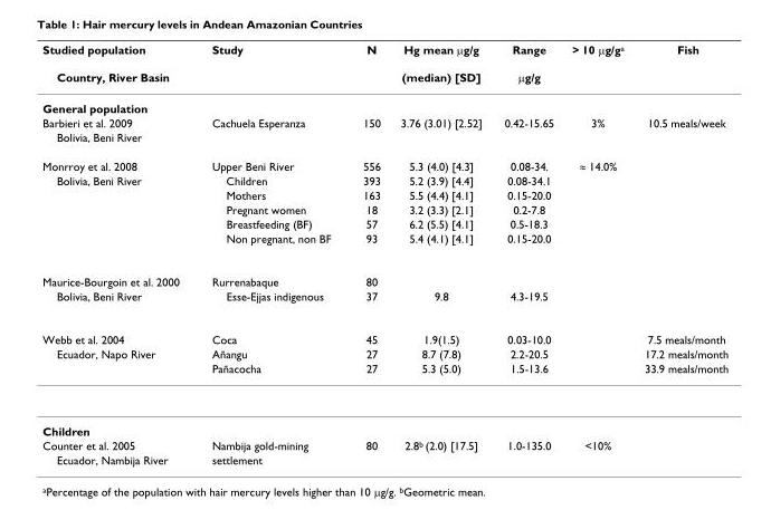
<table><thead><tr><td rowspan="2">Studied population Country, River Basin</td><td rowspan="2">Study</td><td rowspan="2">N</td><td rowspan="2">Hg mean μg/g (median) [SD]</td><td rowspan="2">Range μg/g</td><td rowspan="2">&gt; 10 μg/g<sup>a</sup></td><td rowspan="2">Fish</td></tr><tr></tr></thead><tbody><tr><td colspan="7">General population</td></tr><tr><td>Barbieri et al. 2009</td><td>Cachuela Esperanza</td><td>150</td><td>3.76 (3.01) [2.52]</td><td>0.42-15.65</td><td>3%</td><td>10.5 meals/week</td></tr><tr><td colspan="7">Bolivia, Beni River</td></tr><tr><td>Monrroy et al. 2008</td><td>Upper Beni River</td><td>556</td><td>5.3 (4.0) [4.3]</td><td>0.08-34.</td><td>≈ 14.0%</td><td></td></tr><tr><td rowspan="5">Bolivia, Beni River</td><td>Children</td><td>393</td><td>5.2 (3.9) [4.4]</td><td>0.08-34.1</td><td></td><td></td></tr><tr><td>Mothers</td><td>163</td><td>5.5 (4.4) [4.1]</td><td>0.15-20.0</td><td></td><td></td></tr><tr><td>Pregnant women</td><td>18</td><td>3.2 (3.3) [2.1]</td><td>0.2-7.8</td><td></td><td></td></tr><tr><td>Breastfeeding (BF)</td><td>57</td><td>6.2 (5.5) [4.1]</td><td>0.5-18.3</td><td></td><td></td></tr><tr><td>Non pregnant, non BF</td><td>93</td><td>5.4 (4.1) [4.1]</td><td>0.15-20.0</td><td></td><td></td></tr><tr><td>Maurice-Bourgoin et al. 2000</td><td>Rurrenabaque</td><td>80</td><td></td><td></td><td></td><td></td></tr><tr><td>Bolivia, Beni River</td><td>Esse-Ejjas indigenous</td><td>37</td><td>9.8</td><td>4.3-19.5</td><td></td><td></td></tr><tr><td>Webb et al. 2004</td><td>Coca</td><td>45</td><td>1.9(1.5)</td><td>0.03-10.0</td><td></td><td>7.5 meals/month</td></tr><tr><td rowspan="2">Ecuador, Napo River</td><td>Añangu</td><td>27</td><td>8.7 (7.8)</td><td>2.2-20.5</td><td></td><td>17.2 meals/month</td></tr><tr><td>Pañacocha</td><td>27</td><td>5.3 (5.0)</td><td>1.5-13.6</td><td></td><td>33.9 meals/month</td></tr><tr><td colspan="7">Children</td></tr><tr><td>Counter et al. 2005</td><td>Nambija gold-mining</td><td>80</td><td>2.8b (2.0) [17.5]</td><td>1.0-135.0</td><td>&lt;10%</td><td></td></tr><tr><td>Ecuador, Nambija River</td><td>settlement</td><td></td><td></td><td></td><td></td><td></td></tr></tbody></table>